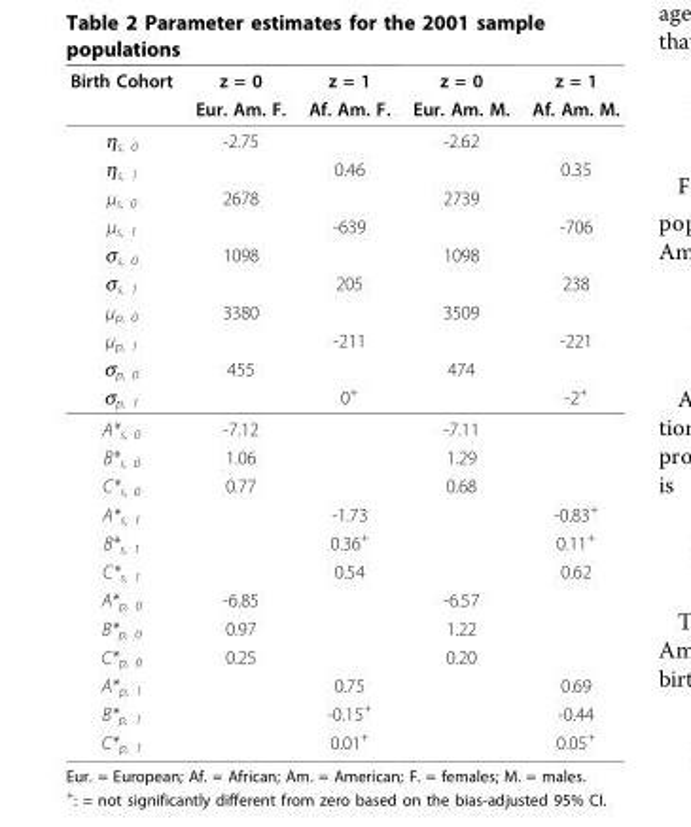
<table><thead><tr><td rowspan="12">Birth Cohort ηs, 0 ηs, 1 μs, 0 μs, 1 σs, 0 σs, 1 μp, 0 μp, 1 σp, 0 σp, 1</td><td rowspan="12">z = 0 Eur. Am. F. -2.75 2678 1098 3380 455</td><td rowspan="12">z = 1 Af. Am. F. 0.46 -639 205 -211 0+</td><td rowspan="12">z = 0 Eur. Am. M. -2.62 2739 1098 3509 474</td><td rowspan="12">z = 1 Af. Am. M. 0.35 -706 238 -221 -2+</td></tr><tr></tr><tr></tr><tr></tr><tr></tr><tr></tr><tr></tr><tr></tr><tr></tr><tr></tr><tr></tr><tr></tr></thead><tbody><tr><td>A*s, 0</td><td>-7.12</td><td></td><td>-7.11</td><td></td></tr><tr><td>B*s, 0</td><td>1.06</td><td></td><td>1.29</td><td></td></tr><tr><td>C*s, 0</td><td>0.77</td><td></td><td>0.68</td><td></td></tr><tr><td>A*s, 1</td><td></td><td>-1.73</td><td></td><td>-0.83<sup>+</sup></td></tr><tr><td>B*s, 1</td><td></td><td>0.36<sup>+</sup></td><td></td><td>0.11<sup>+</sup></td></tr><tr><td>C*s, 1</td><td></td><td>0.54</td><td></td><td>0.62</td></tr><tr><td>A*<sub>p, 0</sub></td><td>-6.85</td><td></td><td>-6.57</td><td></td></tr><tr><td>B*<sub>p, 0</sub></td><td>0.97</td><td></td><td>1.22</td><td></td></tr><tr><td>C*<sub>p, 0</sub></td><td>0.25</td><td></td><td>0.20</td><td></td></tr><tr><td>A*<sub>p, 1</sub></td><td></td><td>0.75</td><td></td><td>0.69</td></tr><tr><td>B*<sub>p, 1</sub></td><td></td><td>-0.15<sup>+</sup></td><td></td><td>-0.44</td></tr><tr><td>C*<sub>p, 1</sub></td><td></td><td>0.01<sup>+</sup></td><td></td><td>0.05<sup>+</sup></td></tr></tbody></table>